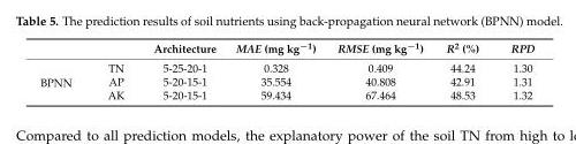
<table><thead><tr><td></td><td></td><td>Architecture</td><td>MAE (mg kg<sup>−1</sup>)</td><td>RMSE (mg kg<sup>−1</sup>)</td><td>R<sup>2</sup> (%)</td><td>RPD</td></tr></thead><tbody><tr><td rowspan="3">BPNN</td><td>TN</td><td>5-25-20-1</td><td>0.328</td><td>0.409</td><td>44.24</td><td>1.30</td></tr><tr><td>AP</td><td>5-20-15-1</td><td>35.554</td><td>40.808</td><td>42.91</td><td>1.31</td></tr><tr><td>AK</td><td>5-20-15-1</td><td>59.434</td><td>67.464</td><td>48.53</td><td>1.32</td></tr></tbody></table>